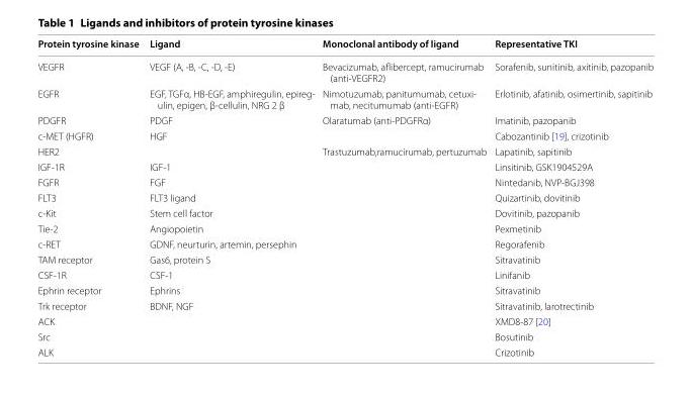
<table><thead><tr><td>Protein tyrosine kinase</td><td>Ligand</td><td>Monoclonal antibody of ligand</td><td>Representative TKI</td></tr></thead><tbody><tr><td>VEGFR</td><td>VEGF (A, -B, -C, -D, -E)</td><td>Bevacizumab, aflibercept, ramucirumab (anti-VEGFR2)</td><td>Sorafenib, sunitinib, axitinib, pazopanib</td></tr><tr><td>EGFR</td><td>EGF, TGFα, HB-EGF, amphiregulin, epireg- ulin, epigen, β-cellulin, NRG 2 β</td><td>Nimotuzumab, panitumumab, cetuxi- mab, necitumumab (anti-EGFR)</td><td>Erlotinib, afatinib, osimertinib, sapitinib</td></tr><tr><td>PDGFR</td><td>PDGF</td><td>Olaratumab (anti-PDGFRα)</td><td>Imatinib, pazopanib</td></tr><tr><td>c-MET (HGFR)</td><td>HGF</td><td></td><td>Cabozantinib [19], crizotinib</td></tr><tr><td>HER2</td><td></td><td>Trastuzumab,ramucirumab, pertuzumab</td><td>Lapatinib, sapitinib</td></tr><tr><td>IGF-1R</td><td>IGF-1</td><td></td><td>Linsitinib, GSK1904529A</td></tr><tr><td>FGFR</td><td>FGF</td><td></td><td>Nintedanib, NVP-BGJ398</td></tr><tr><td>FLT3</td><td>FLT3 ligand</td><td></td><td>Quizartinib, dovitinib</td></tr><tr><td>c-Kit</td><td>Stem cell factor</td><td></td><td>Dovitinib, pazopanib</td></tr><tr><td>Tie-2</td><td>Angiopoietin</td><td></td><td>Pexmetinib</td></tr><tr><td>c-RET</td><td>GDNF, neurturin, artemin, persephin</td><td></td><td>Regorafenib</td></tr><tr><td>TAM receptor</td><td>Gas6, protein S</td><td></td><td>Sitravatinib</td></tr><tr><td>CSF-1R</td><td>CSF-1</td><td></td><td>Linifanib</td></tr><tr><td>Ephrin receptor</td><td>Ephrins</td><td></td><td>Sitravatinib</td></tr><tr><td>Trk receptor</td><td>BDNF, NGF</td><td></td><td>Sitravatinib, larotrectinib</td></tr><tr><td>ACK</td><td></td><td></td><td>XMD8-87 [20]</td></tr><tr><td>Src</td><td></td><td></td><td>Bosutinib</td></tr><tr><td>ALK</td><td></td><td></td><td>Crizotinib</td></tr></tbody></table>